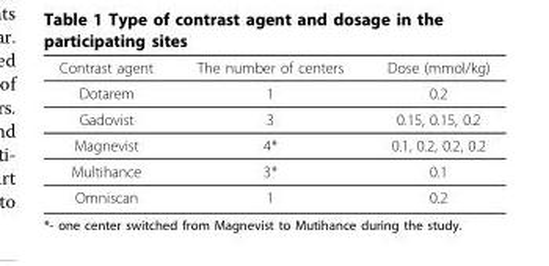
<table><thead><tr><td>Contrast agent</td><td>The number of centers</td><td>Dose (mmol/kg)</td></tr></thead><tbody><tr><td>Dotarem</td><td>1</td><td>0.2</td></tr><tr><td>Gadovist</td><td>3</td><td>0.15, 0.15, 0.2</td></tr><tr><td>Magnevist</td><td>4*</td><td>0.1, 0.2, 0.2, 0.2</td></tr><tr><td>Multihance</td><td>3*</td><td>0.1</td></tr><tr><td>Omniscan</td><td>1</td><td>0.2</td></tr></tbody></table>